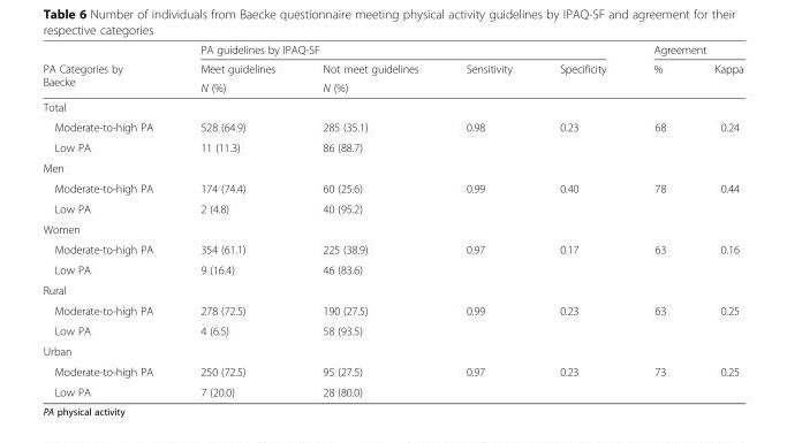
<table><thead><tr><td rowspan="3">PA Categories by Baecke</td><td colspan="4">PA guidelines by IPAQ-SF</td><td colspan="2">Agreement</td></tr><tr><td rowspan="2">Meet guidelines N (%)</td><td rowspan="2">Not meet guidelines N (%)</td><td rowspan="2">Sensitivity</td><td rowspan="2">Specificity</td><td rowspan="2">%</td><td rowspan="2">Kappa</td></tr><tr></tr></thead><tbody><tr><td colspan="7">Total</td></tr><tr><td>Moderate-to-high PA</td><td>528 (64.9)</td><td>285 (35.1)</td><td>0.98</td><td>0.23</td><td>68</td><td>0.24</td></tr><tr><td>Low PA</td><td>11 (11.3)</td><td>86 (88.7)</td><td></td><td></td><td></td><td></td></tr><tr><td colspan="7">Men</td></tr><tr><td>Moderate-to-high PA</td><td>174 (74.4)</td><td>60 (25.6)</td><td>0.99</td><td>0.40</td><td>78</td><td>0.44</td></tr><tr><td>Low PA</td><td>2 (4.8)</td><td>40 (95.2)</td><td></td><td></td><td></td><td></td></tr><tr><td colspan="7">Women</td></tr><tr><td>Moderate-to-high PA</td><td>354 (61.1)</td><td>225 (38.9)</td><td>0.97</td><td>0.17</td><td>63</td><td>0.16</td></tr><tr><td>Low PA</td><td>9 (16.4)</td><td>46 (83.6)</td><td></td><td></td><td></td><td></td></tr><tr><td colspan="7">Rural</td></tr><tr><td>Moderate-to-high PA</td><td>278 (72.5)</td><td>190 (27.5)</td><td>0.99</td><td>0.23</td><td>63</td><td>0.25</td></tr><tr><td>Low PA</td><td>4 (6.5)</td><td>58 (93.5)</td><td></td><td></td><td></td><td></td></tr><tr><td colspan="7">Urban</td></tr><tr><td>Moderate-to-high PA</td><td>250 (72.5)</td><td>95 (27.5)</td><td>0.97</td><td>0.23</td><td>73</td><td>0.25</td></tr><tr><td>Low PA</td><td>7 (20.0)</td><td>28 (80.0)</td><td></td><td></td><td></td><td></td></tr></tbody></table>